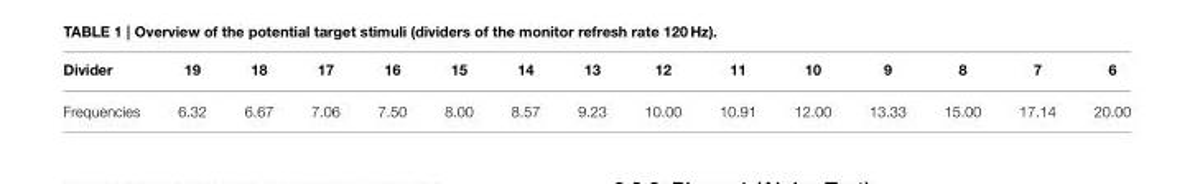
<table><thead><tr><td>Divider</td><td>19</td><td>18</td><td>17</td><td>16</td><td>15</td><td>14</td><td>13</td><td>12</td><td>11</td><td>10</td><td>9</td><td>8</td><td>7</td><td>6</td></tr></thead><tbody><tr><td>Frequencies</td><td>6.32</td><td>6.67</td><td>7.06</td><td>7.50</td><td>8.00</td><td>8.57</td><td>9.23</td><td>10.00</td><td>10.91</td><td>12.00</td><td>13.33</td><td>15.00</td><td>17.14</td><td>20.00</td></tr></tbody></table>